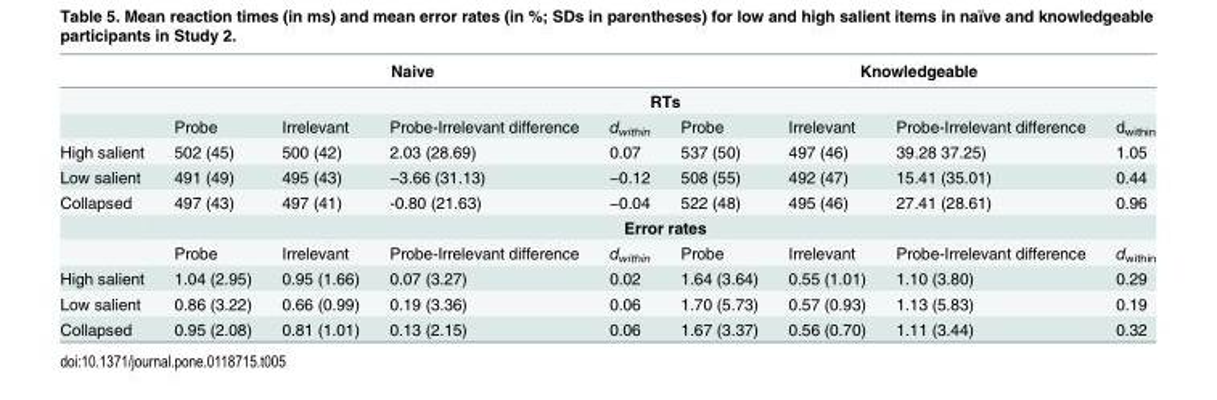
<table><thead><tr><td rowspan="3"></td><td colspan="4">Naive</td><td colspan="4">Knowledgeable</td></tr><tr><td colspan="8">RTs</td></tr><tr><td>Probe</td><td>Irrelevant</td><td>Probe-Irrelevant difference</td><td>d<sub>within</sub></td><td>Probe</td><td>Irrelevant</td><td>Probe-Irrelevant difference</td><td>d<sub>within</sub></td></tr></thead><tbody><tr><td>High salient</td><td>502 (45)</td><td>500 (42)</td><td>2.03 (28.69)</td><td>0.07</td><td>537 (50)</td><td>497 (46)</td><td>39.28 37.25)</td><td>1.05</td></tr><tr><td>Low salient</td><td>491 (49)</td><td>495 (43)</td><td>−3.66 (31.13)</td><td>−0.12</td><td>508 (55)</td><td>492 (47)</td><td>15.41 (35.01)</td><td>0.44</td></tr><tr><td rowspan="3">Collapsed</td><td>497 (43)</td><td>497 (41)</td><td>-0.80 (21.63)</td><td>−0.04</td><td>522 (48)</td><td>495 (46)</td><td>27.41 (28.61)</td><td>0.96</td></tr><tr><td colspan="8">Error rates</td></tr><tr><td>Probe</td><td>Irrelevant</td><td>Probe-Irrelevant difference</td><td>d<sub>within</sub></td><td>Probe</td><td>Irrelevant</td><td>Probe-Irrelevant difference</td><td>d<sub>within</sub></td></tr><tr><td>High salient</td><td>1.04 (2.95)</td><td>0.95 (1.66)</td><td>0.07 (3.27)</td><td>0.02</td><td>1.64 (3.64)</td><td>0.55 (1.01)</td><td>1.10 (3.80)</td><td>0.29</td></tr><tr><td>Low salient</td><td>0.86 (3.22)</td><td>0.66 (0.99)</td><td>0.19 (3.36)</td><td>0.06</td><td>1.70 (5.73)</td><td>0.57 (0.93)</td><td>1.13 (5.83)</td><td>0.19</td></tr><tr><td>Collapsed</td><td>0.95 (2.08)</td><td>0.81 (1.01)</td><td>0.13 (2.15)</td><td>0.06</td><td>1.67 (3.37)</td><td>0.56 (0.70)</td><td>1.11 (3.44)</td><td>0.32</td></tr></tbody></table>